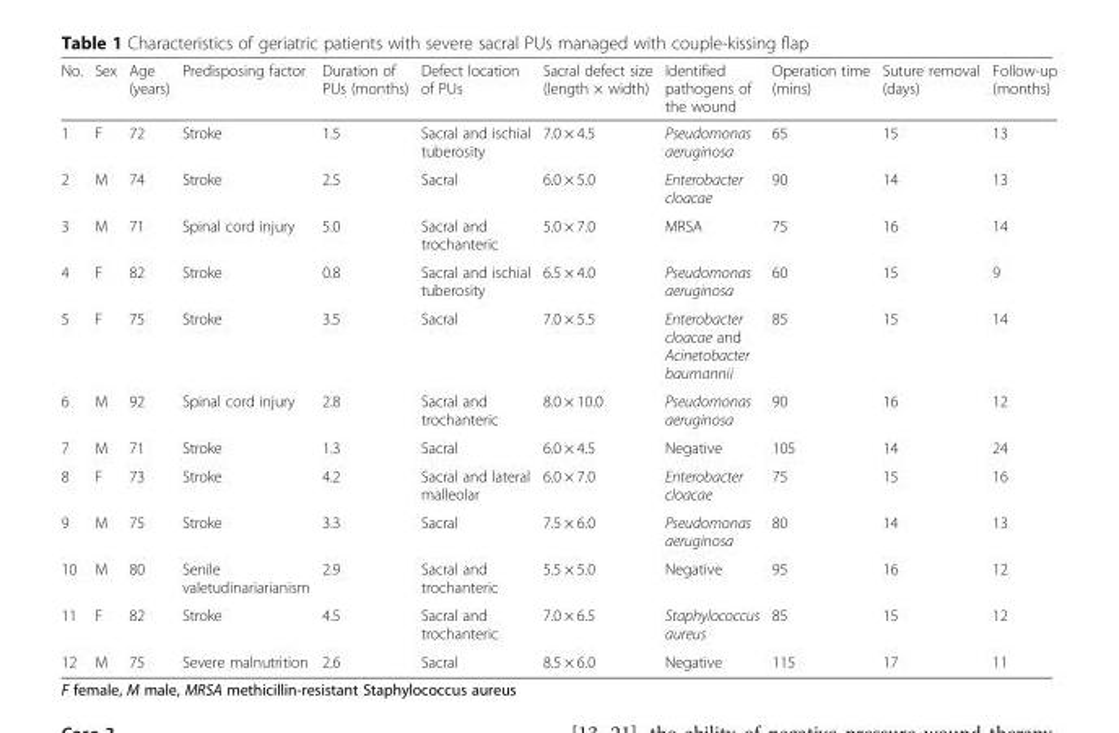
<table><thead><tr><td>No.</td><td>Sex</td><td>Age (years)</td><td>Predisposing factor</td><td>Duration of PUs (months)</td><td>Defect location of PUs</td><td>Sacral defect size (length × width)</td><td>Identified pathogens of the wound</td><td>Operation time (mins)</td><td>Suture removal (days)</td><td>Follow-up (months)</td></tr></thead><tbody><tr><td>1</td><td>F</td><td>72</td><td>Stroke</td><td>1.5</td><td>Sacral and ischial tuberosity</td><td>7.0 × 4.5</td><td>Pseudomonas aeruginosa</td><td>65</td><td>15</td><td>13</td></tr><tr><td>2</td><td>M</td><td>74</td><td>Stroke</td><td>2.5</td><td>Sacral</td><td>6.0 × 5.0</td><td>Enterobacter cloacae</td><td>90</td><td>14</td><td>13</td></tr><tr><td>3</td><td>M</td><td>71</td><td>Spinal cord injury</td><td>5.0</td><td>Sacral and trochanteric</td><td>5.0 × 7.0</td><td>MRSA</td><td>75</td><td>16</td><td>14</td></tr><tr><td>4</td><td>F</td><td>82</td><td>Stroke</td><td>0.8</td><td>Sacral and ischial tuberosity</td><td>6.5 × 4.0</td><td>Pseudomonas aeruginosa</td><td>60</td><td>15</td><td>9</td></tr><tr><td>5</td><td>F</td><td>75</td><td>Stroke</td><td>3.5</td><td>Sacral</td><td>7.0 × 5.5</td><td>Enterobacter cloacae and Acinetobacter baumannii</td><td>85</td><td>15</td><td>14</td></tr><tr><td>6</td><td>M</td><td>92</td><td>Spinal cord injury</td><td>2.8</td><td>Sacral and trochanteric</td><td>8.0 × 10.0</td><td>Pseudomonas aeruginosa</td><td>90</td><td>16</td><td>12</td></tr><tr><td>7</td><td>M</td><td>71</td><td>Stroke</td><td>1.3</td><td>Sacral</td><td>6.0 × 4.5</td><td>Negative</td><td>105</td><td>14</td><td>24</td></tr><tr><td>8</td><td>F</td><td>73</td><td>Stroke</td><td>4.2</td><td>Sacral and lateral malleolar</td><td>6.0 × 7.0</td><td>Enterobacter cloacae</td><td>75</td><td>15</td><td>16</td></tr><tr><td>9</td><td>M</td><td>75</td><td>Stroke</td><td>3.3</td><td>Sacral</td><td>7.5 × 6.0</td><td>Pseudomonas aeruginosa</td><td>80</td><td>14</td><td>13</td></tr><tr><td>10</td><td>M</td><td>80</td><td>Senile valetudinariarianism</td><td>2.9</td><td>Sacral and trochanteric</td><td>5.5 × 5.0</td><td>Negative</td><td>95</td><td>16</td><td>12</td></tr><tr><td>11</td><td>F</td><td>82</td><td>Stroke</td><td>4.5</td><td>Sacral and trochanteric</td><td>7.0 × 6.5</td><td>Staphylococcus aureus</td><td>85</td><td>15</td><td>12</td></tr><tr><td>12</td><td>M</td><td>75</td><td>Severe malnutrition</td><td>2.6</td><td>Sacral</td><td>8.5 × 6.0</td><td>Negative</td><td>115</td><td>17</td><td>11</td></tr></tbody></table>